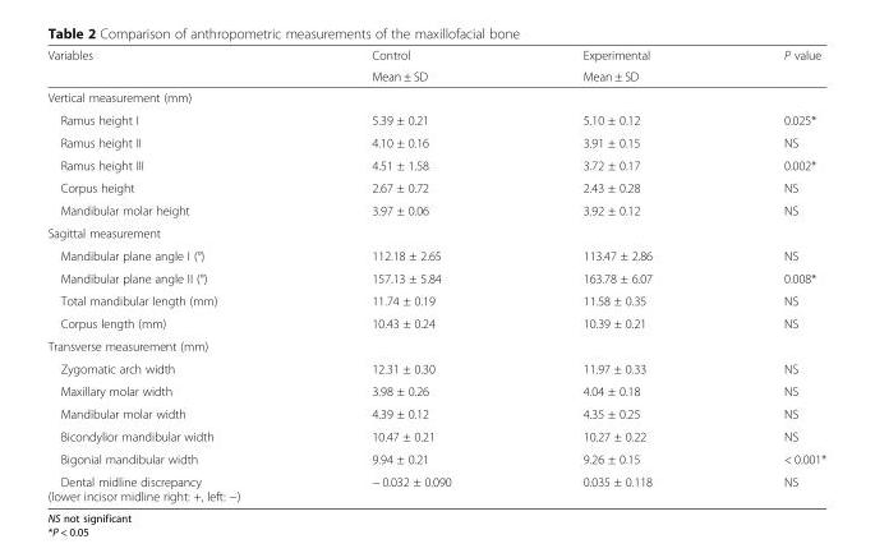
<table><thead><tr><td rowspan="2">Variables</td><td rowspan="2">Control Mean ± SD</td><td rowspan="2">Experimental Mean ± SD</td><td rowspan="2">P value</td></tr><tr></tr></thead><tbody><tr><td colspan="4">Vertical measurement (mm)</td></tr><tr><td>Ramus height I</td><td>5.39 ± 0.21</td><td>5.10 ± 0.12</td><td>0.025*</td></tr><tr><td>Ramus height II</td><td>4.10 ± 0.16</td><td>3.91 ± 0.15</td><td>NS</td></tr><tr><td>Ramus height III</td><td>4.51 ± 1.58</td><td>3.72 ± 0.17</td><td>0.002*</td></tr><tr><td>Corpus height</td><td>2.67 ± 0.72</td><td>2.43 ± 0.28</td><td>NS</td></tr><tr><td>Mandibular molar height</td><td>3.97 ± 0.06</td><td>3.92 ± 0.12</td><td>NS</td></tr><tr><td colspan="4">Sagittal measurement</td></tr><tr><td>Mandibular plane angle I (°)</td><td>112.18 ± 2.65</td><td>113.47 ± 2.86</td><td>NS</td></tr><tr><td>Mandibular plane angle II (°)</td><td>157.13 ± 5.84</td><td>163.78 ± 6.07</td><td>0.008*</td></tr><tr><td>Total mandibular length (mm)</td><td>11.74 ± 0.19</td><td>11.58 ± 0.35</td><td>NS</td></tr><tr><td>Corpus length (mm)</td><td>10.43 ± 0.24</td><td>10.39 ± 0.21</td><td>NS</td></tr><tr><td colspan="4">Transverse measurement (mm)</td></tr><tr><td>Zygomatic arch width</td><td>12.31 ± 0.30</td><td>11.97 ± 0.33</td><td>NS</td></tr><tr><td>Maxillary molar width</td><td>3.98 ± 0.26</td><td>4.04 ± 0.18</td><td>NS</td></tr><tr><td>Mandibular molar width</td><td>4.39 ± 0.12</td><td>4.35 ± 0.25</td><td>NS</td></tr><tr><td>Bicondylior mandibular width</td><td>10.47 ± 0.21</td><td>10.27 ± 0.22</td><td>NS</td></tr><tr><td>Bigonial mandibular width</td><td>9.94 ± 0.21</td><td>9.26 ± 0.15</td><td>&lt; 0.001*</td></tr><tr><td>Dental midline discrepancy (lower incisor midline right: +, left: −)</td><td>− 0.032 ± 0.090</td><td>0.035 ± 0.118</td><td>NS</td></tr></tbody></table>